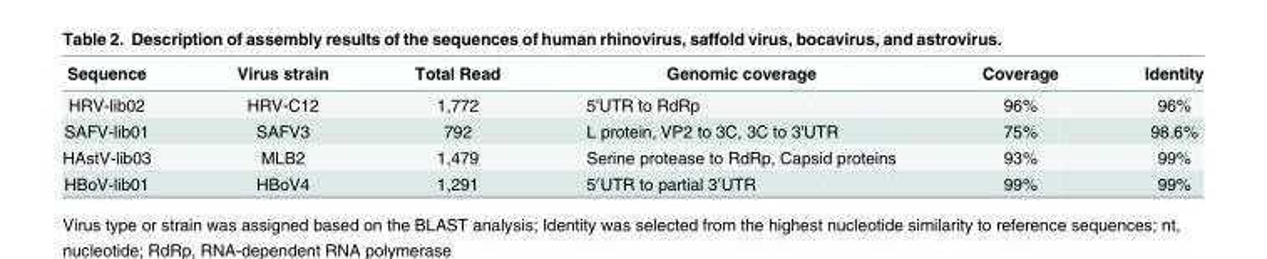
<table><thead><tr><td>Sequence</td><td>Virus strain</td><td>Total Read</td><td>Genomic coverage</td><td>Coverage</td><td>Identity</td></tr></thead><tbody><tr><td>HRV-lib02</td><td>HRV-C12</td><td>1,772</td><td>5&#x27;UTR to RdRp</td><td>96%</td><td>96%</td></tr><tr><td>SAFV-lib01</td><td>SAFV3</td><td>792</td><td>L protein, VP2 to 3C, 3C to 3&#x27;UTR</td><td>75%</td><td>98.6%</td></tr><tr><td>HAstV-lib03</td><td>MLB2</td><td>1,479</td><td>Serine protease to RdRp, Capsid proteins</td><td>93%</td><td>99%</td></tr><tr><td>HBoV-lib01</td><td>HBoV4</td><td>1,291</td><td>5′UTR to partial 3′UTR</td><td>99%</td><td>99%</td></tr></tbody></table>